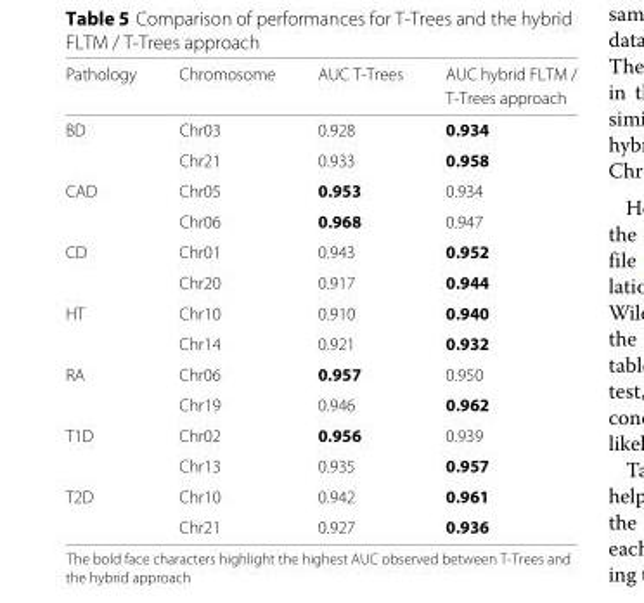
<table><thead><tr><td rowspan="2">Pathology</td><td rowspan="2">Chromosome</td><td rowspan="2">AUC T-Trees</td><td rowspan="2">AUC hybrid FLTM / T-Trees approach</td></tr><tr></tr></thead><tbody><tr><td rowspan="2">BD</td><td>Chr03</td><td>0.928</td><td>0.934</td></tr><tr><td>Chr21</td><td>0.933</td><td>0.958</td></tr><tr><td rowspan="2">CAD</td><td>Chr05</td><td>0.953</td><td>0.934</td></tr><tr><td>Chr06</td><td>0.968</td><td>0.947</td></tr><tr><td rowspan="2">CD</td><td>Chr01</td><td>0.943</td><td>0.952</td></tr><tr><td>Chr20</td><td>0.917</td><td>0.944</td></tr><tr><td rowspan="2">HT</td><td>Chr10</td><td>0.910</td><td>0.940</td></tr><tr><td>Chr14</td><td>0.921</td><td>0.932</td></tr><tr><td rowspan="2">RA</td><td>Chr06</td><td>0.957</td><td>0.950</td></tr><tr><td>Chr19</td><td>0.946</td><td>0.962</td></tr><tr><td rowspan="2">T1D</td><td>Chr02</td><td>0.956</td><td>0.939</td></tr><tr><td>Chr13</td><td>0.935</td><td>0.957</td></tr><tr><td rowspan="2">T2D</td><td>Chr10</td><td>0.942</td><td>0.961</td></tr><tr><td>Chr21</td><td>0.927</td><td>0.936</td></tr></tbody></table>